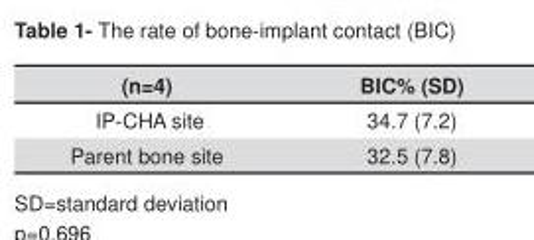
<table><thead><tr><td>(n=4)</td><td>BIC% (SD)</td></tr></thead><tbody><tr><td>IP-CHA site</td><td>34.7 (7.2)</td></tr><tr><td>Parent bone site</td><td>32.5 (7.8)</td></tr></tbody></table>